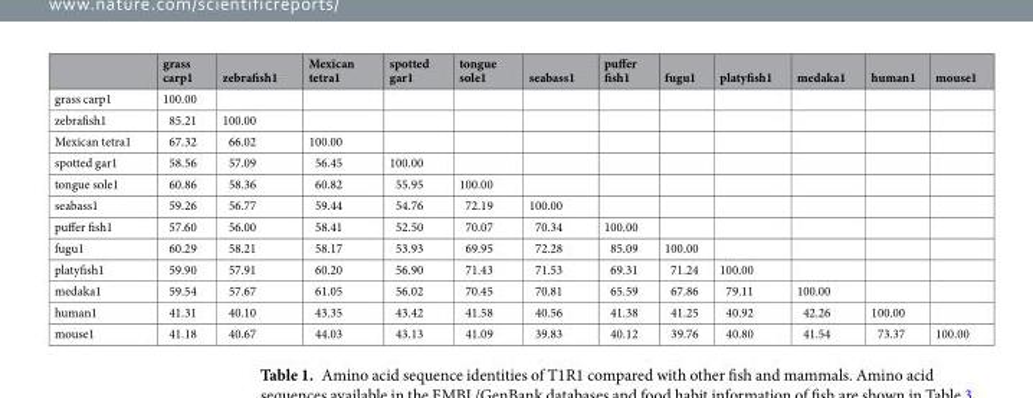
<table><thead><tr><td></td><td>grass carp1</td><td>zebrafish1</td><td>Mexican tetra1</td><td>spotted gar1</td><td>tongue sole1</td><td>seabass1</td><td>puffer fish1</td><td>fugu1</td><td>platyfish1</td><td>medaka1</td><td>human1</td><td>mouse1</td></tr></thead><tbody><tr><td>grass carp1</td><td>100.00</td><td></td><td></td><td></td><td></td><td></td><td></td><td></td><td></td><td></td><td></td><td></td></tr><tr><td>zebrafish1</td><td>85.21</td><td>100.00</td><td></td><td></td><td></td><td></td><td></td><td></td><td></td><td></td><td></td><td></td></tr><tr><td>Mexican tetra1</td><td>67.32</td><td>66.02</td><td>100.00</td><td></td><td></td><td></td><td></td><td></td><td></td><td></td><td></td><td></td></tr><tr><td>spotted gar1</td><td>58.56</td><td>57.09</td><td>56.45</td><td>100.00</td><td></td><td></td><td></td><td></td><td></td><td></td><td></td><td></td></tr><tr><td>tongue sole1</td><td>60.86</td><td>58.36</td><td>60.82</td><td>55.95</td><td>100.00</td><td></td><td></td><td></td><td></td><td></td><td></td><td></td></tr><tr><td>seabass1</td><td>59.26</td><td>56.77</td><td>59.44</td><td>54.76</td><td>72.19</td><td>100.00</td><td></td><td></td><td></td><td></td><td></td><td></td></tr><tr><td>puffer fish1</td><td>57.60</td><td>56.00</td><td>58.41</td><td>52.50</td><td>70.07</td><td>70.34</td><td>100.00</td><td></td><td></td><td></td><td></td><td></td></tr><tr><td>fugu1</td><td>60.29</td><td>58.21</td><td>58.17</td><td>53.93</td><td>69.95</td><td>72.28</td><td>85.09</td><td>100.00</td><td></td><td></td><td></td><td></td></tr><tr><td>platyfish1</td><td>59.90</td><td>57.91</td><td>60.20</td><td>56.90</td><td>71.43</td><td>71.53</td><td>69.31</td><td>71.24</td><td>100.00</td><td></td><td></td><td></td></tr><tr><td>medaka1</td><td>59.54</td><td>57.67</td><td>61.05</td><td>56.02</td><td>70.45</td><td>70.81</td><td>65.59</td><td>67.86</td><td>79.11</td><td>100.00</td><td></td><td></td></tr><tr><td>human1</td><td>41.31</td><td>40.10</td><td>43.35</td><td>43.42</td><td>41.58</td><td>40.56</td><td>41.38</td><td>41.25</td><td>40.92</td><td>42.26</td><td>100.00</td><td></td></tr><tr><td>mouse1</td><td>41.18</td><td>40.67</td><td>44.03</td><td>43.13</td><td>41.09</td><td>39.83</td><td>40.12</td><td>39.76</td><td>40.80</td><td>41.54</td><td>73.37</td><td>100.00</td></tr></tbody></table>